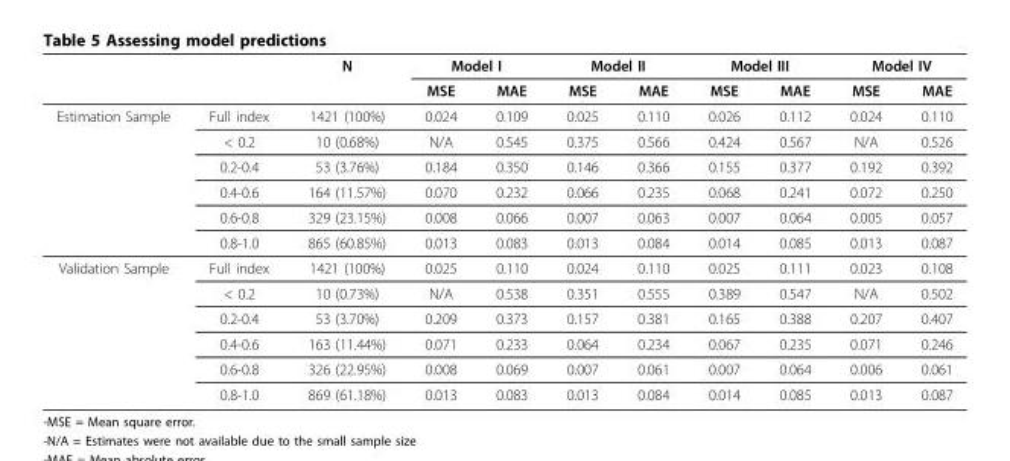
<table><thead><tr><td rowspan="2"></td><td rowspan="2"></td><td rowspan="2">N</td><td colspan="2">Model I</td><td colspan="2">Model II</td><td colspan="2">Model III</td><td colspan="2">Model IV</td></tr><tr><td>MSE</td><td>MAE</td><td>MSE</td><td>MAE</td><td>MSE</td><td>MAE</td><td>MSE</td><td>MAE</td></tr></thead><tbody><tr><td rowspan="6">Estimation Sample</td><td>Full index</td><td>1421 (100%)</td><td>0.024</td><td>0.109</td><td>0.025</td><td>0.110</td><td>0.026</td><td>0.112</td><td>0.024</td><td>0.110</td></tr><tr><td>&lt; 0.2</td><td>10 (0.68%)</td><td>N/A</td><td>0.545</td><td>0.375</td><td>0.566</td><td>0.424</td><td>0.567</td><td>N/A</td><td>0.526</td></tr><tr><td>0.2-0.4</td><td>53 (3.76%)</td><td>0.184</td><td>0.350</td><td>0.146</td><td>0.366</td><td>0.155</td><td>0.377</td><td>0.192</td><td>0.392</td></tr><tr><td>0.4-0.6</td><td>164 (11.57%)</td><td>0.070</td><td>0.232</td><td>0.066</td><td>0.235</td><td>0.068</td><td>0.241</td><td>0.072</td><td>0.250</td></tr><tr><td>0.6-0.8</td><td>329 (23.15%)</td><td>0.008</td><td>0.066</td><td>0.007</td><td>0.063</td><td>0.007</td><td>0.064</td><td>0.005</td><td>0.057</td></tr><tr><td>0.8-1.0</td><td>865 (60.85%)</td><td>0.013</td><td>0.083</td><td>0.013</td><td>0.084</td><td>0.014</td><td>0.085</td><td>0.013</td><td>0.087</td></tr><tr><td rowspan="6">Validation Sample</td><td>Full index</td><td>1421 (100%)</td><td>0.025</td><td>0.110</td><td>0.024</td><td>0.110</td><td>0.025</td><td>0.111</td><td>0.023</td><td>0.108</td></tr><tr><td>&lt; 0.2</td><td>10 (0.73%)</td><td>N/A</td><td>0.538</td><td>0.351</td><td>0.555</td><td>0.389</td><td>0.547</td><td>N/A</td><td>0.502</td></tr><tr><td>0.2-0.4</td><td>53 (3.70%)</td><td>0.209</td><td>0.373</td><td>0.157</td><td>0.381</td><td>0.165</td><td>0.388</td><td>0.207</td><td>0.407</td></tr><tr><td>0.4-0.6</td><td>163 (11.44%)</td><td>0.071</td><td>0.233</td><td>0.064</td><td>0.234</td><td>0.067</td><td>0.235</td><td>0.071</td><td>0.246</td></tr><tr><td>0.6-0.8</td><td>326 (22.95%)</td><td>0.008</td><td>0.069</td><td>0.007</td><td>0.061</td><td>0.007</td><td>0.064</td><td>0.006</td><td>0.061</td></tr><tr><td>0.8-1.0</td><td>869 (61.18%)</td><td>0.013</td><td>0.083</td><td>0.013</td><td>0.084</td><td>0.014</td><td>0.085</td><td>0.013</td><td>0.087</td></tr></tbody></table>